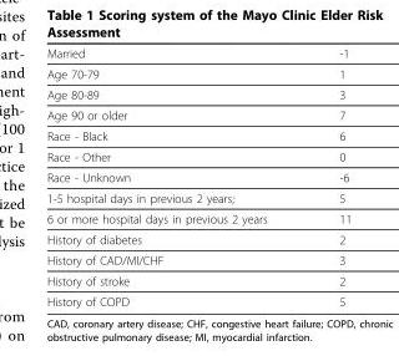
<table><thead><tr><td>Married</td><td>-1</td></tr></thead><tbody><tr><td>Age 70-79</td><td>1</td></tr><tr><td>Age 80-89</td><td>3</td></tr><tr><td>Age 90 or older</td><td>7</td></tr><tr><td>Race - Black</td><td>6</td></tr><tr><td>Race - Other</td><td>0</td></tr><tr><td>Race - Unknown</td><td>-6</td></tr><tr><td>1-5 hospital days in previous 2 years;</td><td>5</td></tr><tr><td>6 or more hospital days in previous 2 years</td><td>11</td></tr><tr><td>History of diabetes</td><td>2</td></tr><tr><td>History of CAD/MI/CHF</td><td>3</td></tr><tr><td>History of stroke</td><td>2</td></tr><tr><td>History of COPD</td><td>5</td></tr></tbody></table>